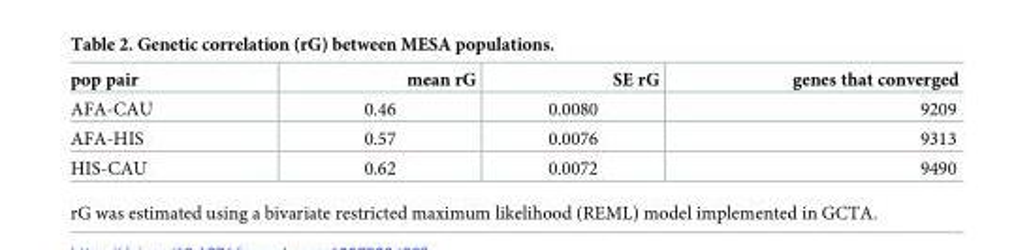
<table><thead><tr><td>pop pair</td><td>mean rG</td><td>SE rG</td><td>genes that converged</td></tr></thead><tbody><tr><td>AFA-CAU</td><td>0.46</td><td>0.0080</td><td>9209</td></tr><tr><td>AFA-HIS</td><td>0.57</td><td>0.0076</td><td>9313</td></tr><tr><td>HIS-CAU</td><td>0.62</td><td>0.0072</td><td>9490</td></tr></tbody></table>